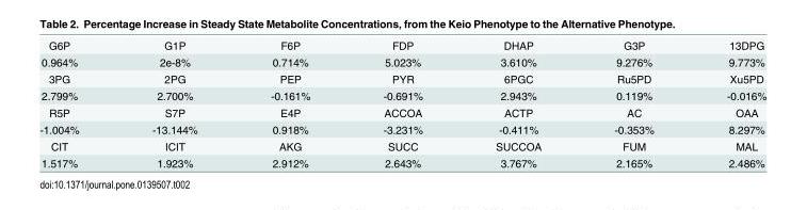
<table><tbody><tr><td>G6P</td><td>G1P</td><td>F6P</td><td>FDP</td><td>DHAP</td><td>G3P</td><td>13DPG</td></tr><tr><td>0.964%</td><td>2e-8%</td><td>0.714%</td><td>5.023%</td><td>3.610%</td><td>9.276%</td><td>9.773%</td></tr><tr><td>3PG</td><td>2PG</td><td>PEP</td><td>PYR</td><td>6PGC</td><td>Ru5PD</td><td>Xu5PD</td></tr><tr><td>2.799%</td><td>2.700%</td><td>-0.161%</td><td>-0.691%</td><td>2.943%</td><td>0.119%</td><td>-0.016%</td></tr><tr><td>R5P</td><td>S7P</td><td>E4P</td><td>ACCOA</td><td>ACTP</td><td>AC</td><td>OAA</td></tr><tr><td>-1.004%</td><td>-13.144%</td><td>0.918%</td><td>-3.231%</td><td>-0.411%</td><td>-0.353%</td><td>8.297%</td></tr><tr><td>CIT</td><td>ICIT</td><td>AKG</td><td>SUCC</td><td>SUCCOA</td><td>FUM</td><td>MAL</td></tr><tr><td>1.517%</td><td>1.923%</td><td>2.912%</td><td>2.643%</td><td>3.767%</td><td>2.165%</td><td>2.486%</td></tr></tbody></table>